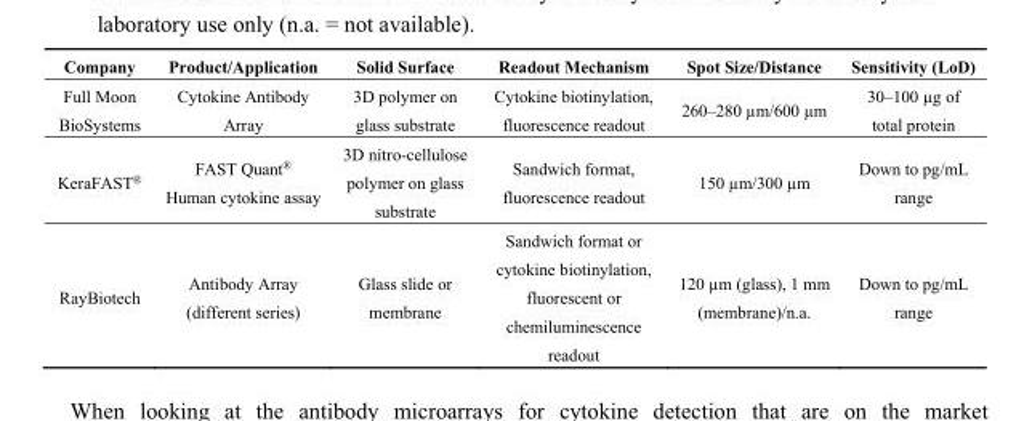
<table><thead><tr><td>Company</td><td>Product/Application</td><td>Solid Surface</td><td>Readout Mechanism</td><td>Spot Size/Distance</td><td>Sensitivity (LoD)</td></tr></thead><tbody><tr><td>Full Moon BioSystems</td><td>Cytokine Antibody Array</td><td>3D polymer on glass substrate</td><td>Cytokine biotinylation, fluorescence readout</td><td>260–280 µm/600 µm</td><td>30–100 µg of total protein</td></tr><tr><td>KeraFAST<sup>®</sup></td><td>FAST Quant<sup>®</sup> Human cytokine assay</td><td>3D nitro-cellulose polymer on glass substrate</td><td>Sandwich format, fluorescence readout</td><td>150 µm/300 µm</td><td>Down to pg/mL range</td></tr><tr><td>RayBiotech</td><td>Antibody Array (different series)</td><td>Glass slide or membrane</td><td>Sandwich format or cytokine biotinylation, fluorescent or chemiluminescence readout</td><td>120 µm (glass), 1 mm (membrane)/n.a.</td><td>Down to pg/mL range</td></tr></tbody></table>